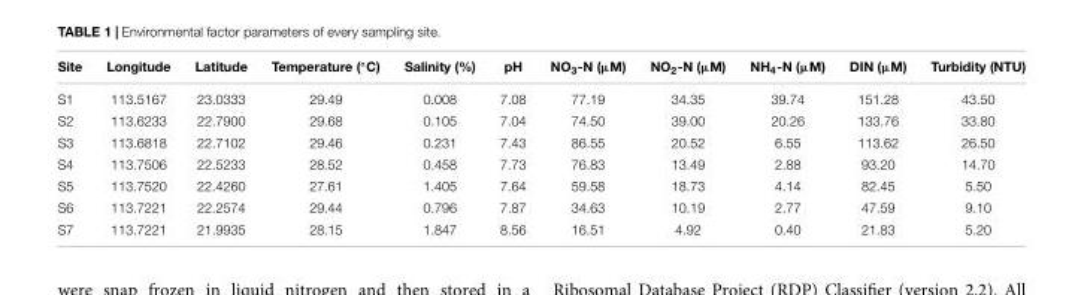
<table><thead><tr><td>Site</td><td>Longitude</td><td>Latitude</td><td>Temperature (◦C)</td><td>Salinity (%)</td><td>pH</td><td>NO<sub>3</sub>-N (µM)</td><td>NO<sub>2</sub>-N (µM)</td><td>NH<sub>4</sub>-N (µM)</td><td>DIN (µM)</td><td>Turbidity (NTU)</td></tr></thead><tbody><tr><td>S1</td><td>113.5167</td><td>23.0333</td><td>29.49</td><td>0.008</td><td>7.08</td><td>77.19</td><td>34.35</td><td>39.74</td><td>151.28</td><td>43.50</td></tr><tr><td>S2</td><td>113.6233</td><td>22.7900</td><td>29.68</td><td>0.105</td><td>7.04</td><td>74.50</td><td>39.00</td><td>20.26</td><td>133.76</td><td>33.80</td></tr><tr><td>S3</td><td>113.6818</td><td>22.7102</td><td>29.46</td><td>0.231</td><td>7.43</td><td>86.55</td><td>20.52</td><td>6.55</td><td>113.62</td><td>26.50</td></tr><tr><td>S4</td><td>113.7506</td><td>22.5233</td><td>28.52</td><td>0.458</td><td>7.73</td><td>76.83</td><td>13.49</td><td>2.88</td><td>93.20</td><td>14.70</td></tr><tr><td>S5</td><td>113.7520</td><td>22.4260</td><td>27.61</td><td>1.405</td><td>7.64</td><td>59.58</td><td>18.73</td><td>4.14</td><td>82.45</td><td>5.50</td></tr><tr><td>S6</td><td>113.7221</td><td>22.2574</td><td>29.44</td><td>0.796</td><td>7.87</td><td>34.63</td><td>10.19</td><td>2.77</td><td>47.59</td><td>9.10</td></tr><tr><td>S7</td><td>113.7221</td><td>21.9935</td><td>28.15</td><td>1.847</td><td>8.56</td><td>16.51</td><td>4.92</td><td>0.40</td><td>21.83</td><td>5.20</td></tr></tbody></table>